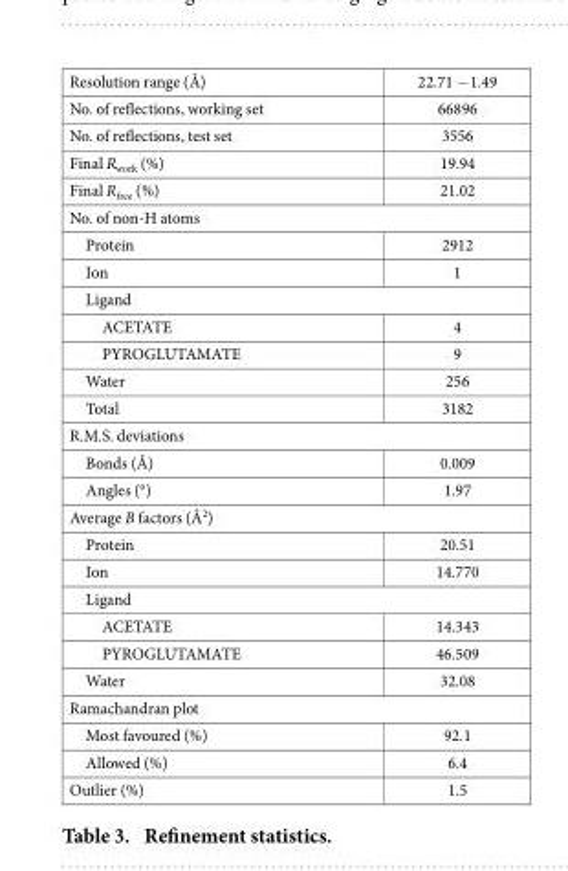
<table><tbody><tr><td>Resolution range (Å)</td><td>22.71 − 1.49</td></tr><tr><td>No. of reflections, working set</td><td>66896</td></tr><tr><td>No. of reflections, test set</td><td>3556</td></tr><tr><td>Final R<sub>work</sub> (%)</td><td>19.94</td></tr><tr><td>Final R<sub>free</sub> (%)</td><td>21.02</td></tr><tr><td colspan="2">No. of non-H atoms</td></tr><tr><td>Protein</td><td>2912</td></tr><tr><td>Ion</td><td>1</td></tr><tr><td colspan="2">Ligand</td></tr><tr><td>ACETATE</td><td>4</td></tr><tr><td>PYROGLUTAMATE</td><td>9</td></tr><tr><td>Water</td><td>256</td></tr><tr><td>Total</td><td>3182</td></tr><tr><td colspan="2">R.M.S. deviations</td></tr><tr><td>Bonds (Å)</td><td>0.009</td></tr><tr><td>Angles (°)</td><td>1.97</td></tr><tr><td colspan="2">Average B factors (Å<sup>2</sup>)</td></tr><tr><td>Protein</td><td>20.51</td></tr><tr><td>Ion</td><td>14.770</td></tr><tr><td colspan="2">Ligand</td></tr><tr><td>ACETATE</td><td>14.343</td></tr><tr><td>PYROGLUTAMATE</td><td>46.509</td></tr><tr><td>Water</td><td>32.08</td></tr><tr><td colspan="2">Ramachandran plot</td></tr><tr><td>Most favoured (%)</td><td>92.1</td></tr><tr><td>Allowed (%)</td><td>6.4</td></tr><tr><td>Outlier (%)</td><td>1.5</td></tr></tbody></table>